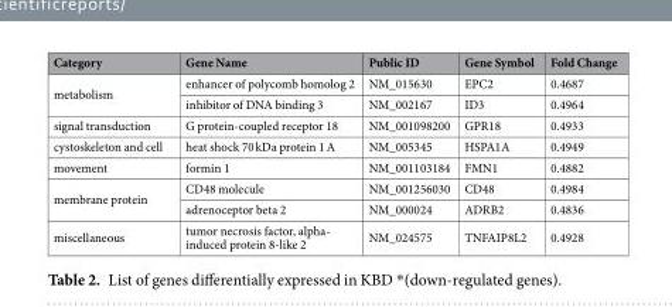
<table><thead><tr><td>Category</td><td>Gene Name</td><td>Public ID</td><td>Gene Symbol</td><td>Fold Change</td></tr></thead><tbody><tr><td rowspan="2">metabolism</td><td>enhancer of polycomb homolog 2</td><td>NM_015630</td><td>EPC2</td><td>0.4687</td></tr><tr><td>inhibitor of DNA binding 3</td><td>NM_002167</td><td>ID3</td><td>0.4964</td></tr><tr><td>signal transduction</td><td>G protein-coupled receptor 18</td><td>NM_001098200</td><td>GPR18</td><td>0.4933</td></tr><tr><td>cystoskeleton and cell</td><td>heat shock 70 kDa protein 1 A</td><td>NM_005345</td><td>HSPA1A</td><td>0.4949</td></tr><tr><td>movement</td><td>formin 1</td><td>NM_001103184</td><td>FMN1</td><td>0.4882</td></tr><tr><td rowspan="2">membrane protein</td><td>CD48 molecule</td><td>NM_001256030</td><td>CD48</td><td>0.4984</td></tr><tr><td>adrenoceptor beta 2</td><td>NM_000024</td><td>ADRB2</td><td>0.4836</td></tr><tr><td>miscellaneous</td><td>tumor necrosis factor, alpha- induced protein 8-like 2</td><td>NM_024575</td><td>TNFAIP8L2</td><td>0.4928</td></tr></tbody></table>